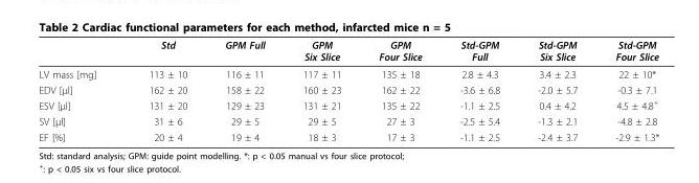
<table><thead><tr><td></td><td>Std</td><td>GPM Full</td><td>GPM Six Slice</td><td>GPM Four Slice</td><td>Std-GPM Full</td><td>Std-GPM Six Slice</td><td>Std-GPM Four Slice</td></tr></thead><tbody><tr><td>LV mass [mg]</td><td>113 ± 10</td><td>116 ± 11</td><td>117 ± 11</td><td>135 ± 18</td><td>2.8 ± 4.3</td><td>3.4 ± 2.3</td><td>22 ± 10*</td></tr><tr><td>EDV [μl]</td><td>162 ± 20</td><td>158 ± 22</td><td>160 ± 23</td><td>162 ± 22</td><td>-3.6 ± 6.8</td><td>-2.0 ± 5.7</td><td>-0.3 ± 7.1</td></tr><tr><td>ESV [μl]</td><td>131 ± 20</td><td>129 ± 23</td><td>131 ± 21</td><td>135 ± 22</td><td>-1.1 ± 2.5</td><td>0.4 ± 4.2</td><td>4.5 ± 4.8<sup>+</sup></td></tr><tr><td>SV [μl]</td><td>31 ± 6</td><td>29 ± 5</td><td>29 ± 5</td><td>27 ± 3</td><td>-2.5 ± 5.4</td><td>-1.3 ± 2.1</td><td>-4.8 ± 2.8</td></tr><tr><td>EF [%]</td><td>20 ± 4</td><td>19 ± 4</td><td>18 ± 3</td><td>17 ± 3</td><td>-1.1 ± 2.5</td><td>-2.4 ± 3.7</td><td>-2.9 ± 1.3*</td></tr></tbody></table>